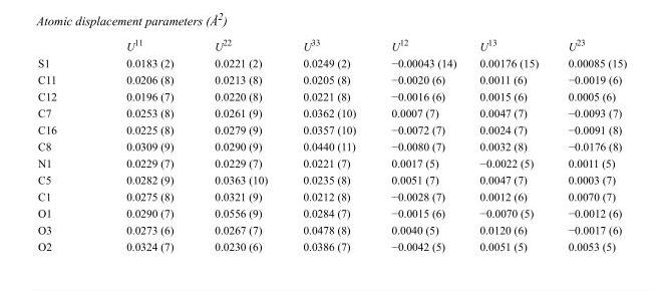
<table><thead><tr><td></td><td>U<sup>11</sup></td><td>U<sup>22</sup></td><td>U<sup>33</sup></td><td>U<sup>12</sup></td><td>U<sup>13</sup></td><td>U<sup>23</sup></td></tr></thead><tbody><tr><td>S1</td><td>0.0183 (2)</td><td>0.0221 (2)</td><td>0.0249 (2)</td><td>−0.00043 (14)</td><td>0.00176 (15)</td><td>0.00085 (15)</td></tr><tr><td>C11</td><td>0.0206 (8)</td><td>0.0213 (8)</td><td>0.0205 (8)</td><td>−0.0020 (6)</td><td>0.0011 (6)</td><td>−0.0019 (6)</td></tr><tr><td>C12</td><td>0.0196 (7)</td><td>0.0220 (8)</td><td>0.0221 (8)</td><td>−0.0016 (6)</td><td>0.0015 (6)</td><td>0.0005 (6)</td></tr><tr><td>C7</td><td>0.0253 (8)</td><td>0.0261 (9)</td><td>0.0362 (10)</td><td>0.0007 (7)</td><td>0.0047 (7)</td><td>−0.0093 (7)</td></tr><tr><td>C16</td><td>0.0225 (8)</td><td>0.0279 (9)</td><td>0.0357 (10)</td><td>−0.0072 (7)</td><td>0.0024 (7)</td><td>−0.0091 (8)</td></tr><tr><td>C8</td><td>0.0309 (9)</td><td>0.0290 (9)</td><td>0.0440 (11)</td><td>−0.0080 (7)</td><td>0.0032 (8)</td><td>−0.0176 (8)</td></tr><tr><td>N1</td><td>0.0229 (7)</td><td>0.0229 (7)</td><td>0.0221 (7)</td><td>0.0017 (5)</td><td>−0.0022 (5)</td><td>0.0011 (5)</td></tr><tr><td>C5</td><td>0.0282 (9)</td><td>0.0363 (10)</td><td>0.0235 (8)</td><td>0.0051 (7)</td><td>0.0047 (7)</td><td>0.0003 (7)</td></tr><tr><td>C1</td><td>0.0275 (8)</td><td>0.0321 (9)</td><td>0.0212 (8)</td><td>−0.0028 (7)</td><td>0.0012 (6)</td><td>0.0070 (7)</td></tr><tr><td>O1</td><td>0.0290 (7)</td><td>0.0556 (9)</td><td>0.0284 (7)</td><td>−0.0015 (6)</td><td>−0.0070 (5)</td><td>−0.0012 (6)</td></tr><tr><td>O3</td><td>0.0273 (6)</td><td>0.0267 (7)</td><td>0.0478 (8)</td><td>0.0040 (5)</td><td>0.0120 (6)</td><td>−0.0017 (6)</td></tr><tr><td>O2</td><td>0.0324 (7)</td><td>0.0230 (6)</td><td>0.0386 (7)</td><td>−0.0042 (5)</td><td>0.0051 (5)</td><td>0.0053 (5)</td></tr></tbody></table>